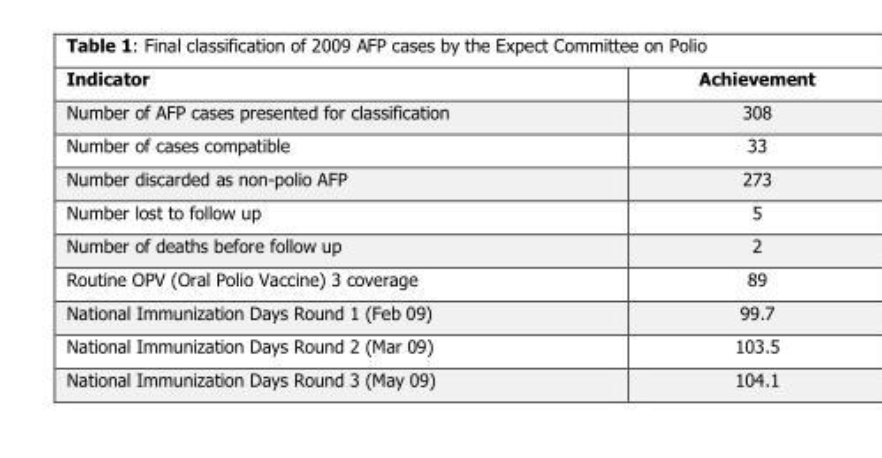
<table><thead><tr><td>Indicator</td><td>Achievement</td></tr></thead><tbody><tr><td>Number of AFP cases presented for classification</td><td>308</td></tr><tr><td>Number of cases compatible</td><td>33</td></tr><tr><td>Number discarded as non-polio AFP</td><td>273</td></tr><tr><td>Number lost to follow up</td><td>5</td></tr><tr><td>Number of deaths before follow up</td><td>2</td></tr><tr><td>Routine OPV (Oral Polio Vaccine) 3 coverage</td><td>89</td></tr><tr><td>National Immunization Days Round 1 (Feb 09)</td><td>99.7</td></tr><tr><td>National Immunization Days Round 2 (Mar 09)</td><td>103.5</td></tr><tr><td>National Immunization Days Round 3 (May 09)</td><td>104.1</td></tr></tbody></table>